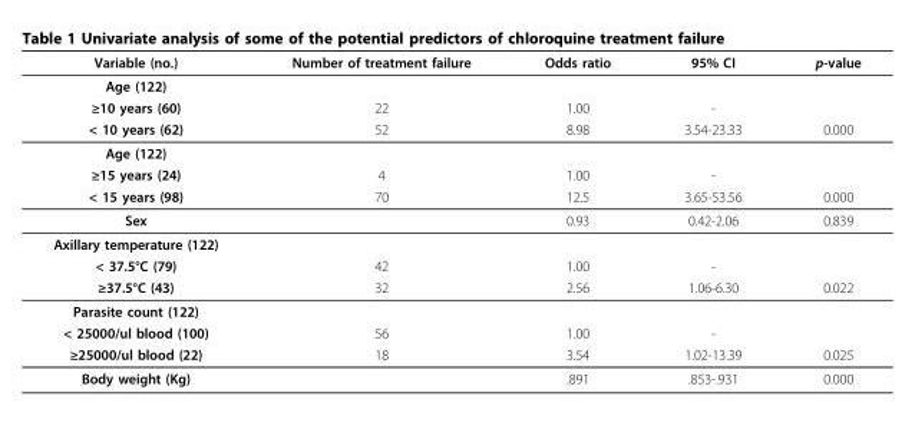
<table><thead><tr><td>Variable (no.)</td><td>Number of treatment failure</td><td>Odds ratio</td><td>95% CI</td><td>p-value</td></tr></thead><tbody><tr><td colspan="5">Age (122)</td></tr><tr><td>≥10 years (60)</td><td>22</td><td>1.00</td><td>-</td><td></td></tr><tr><td>&lt; 10 years (62)</td><td>52</td><td>8.98</td><td>3.54-23.33</td><td>0.000</td></tr><tr><td colspan="5">Age (122)</td></tr><tr><td>≥15 years (24)</td><td>4</td><td>1.00</td><td>-</td><td></td></tr><tr><td>&lt; 15 years (98)</td><td>70</td><td>12.5</td><td>3.65-53.56</td><td>0.000</td></tr><tr><td>Sex</td><td></td><td>0.93</td><td>0.42-2.06</td><td>0.839</td></tr><tr><td colspan="5">Axillary temperature (122)</td></tr><tr><td>&lt; 37.5°C (79)</td><td>42</td><td>1.00</td><td>-</td><td></td></tr><tr><td>≥37.5°C (43)</td><td>32</td><td>2.56</td><td>1.06-6.30</td><td>0.022</td></tr><tr><td colspan="5">Parasite count (122)</td></tr><tr><td>&lt; 25000/ul blood (100)</td><td>56</td><td>1.00</td><td>-</td><td></td></tr><tr><td>≥25000/ul blood (22)</td><td>18</td><td>3.54</td><td>1.02-13.39</td><td>0.025</td></tr><tr><td>Body weight (Kg)</td><td></td><td>.891</td><td>.853-.931</td><td>0.000</td></tr></tbody></table>